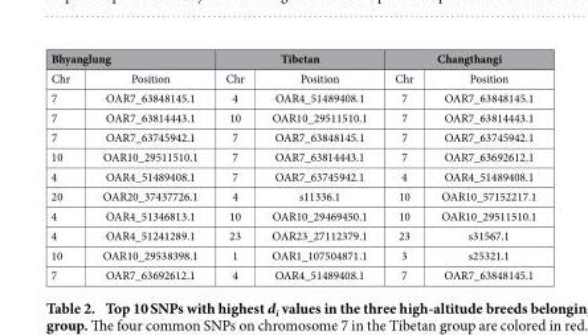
<table><thead><tr><td colspan="2">Bhyanglung</td><td colspan="2">Tibetan</td><td colspan="2">Changthangi</td></tr><tr><td>Chr</td><td>Position</td><td>Chr</td><td>Position</td><td>Chr</td><td>Position</td></tr></thead><tbody><tr><td>7</td><td>OAR7_63848145.1</td><td>4</td><td>OAR4_51489408.1</td><td>7</td><td>OAR7_63848145.1</td></tr><tr><td>7</td><td>OAR7_63814443.1</td><td>10</td><td>OAR10_29511510.1</td><td>7</td><td>OAR7_63814443.1</td></tr><tr><td>7</td><td>OAR7_63745942.1</td><td>7</td><td>OAR7_63848145.1</td><td>7</td><td>OAR7_63745942.1</td></tr><tr><td>10</td><td>OAR10_29511510.1</td><td>7</td><td>OAR7_63814443.1</td><td>7</td><td>OAR7_63692612.1</td></tr><tr><td>4</td><td>OAR4_51489408.1</td><td>7</td><td>OAR7_63745942.1</td><td>4</td><td>OAR4_51489408.1</td></tr><tr><td>20</td><td>OAR20_37437726.1</td><td>4</td><td>s11336.1</td><td>10</td><td>OAR10_57152217.1</td></tr><tr><td>4</td><td>OAR4_51346813.1</td><td>10</td><td>OAR10_29469450.1</td><td>10</td><td>OAR10_29511510.1</td></tr><tr><td>4</td><td>OAR4_51241289.1</td><td>23</td><td>OAR23_27112379.1</td><td>23</td><td>s31567.1</td></tr><tr><td>10</td><td>OAR10_29538398.1</td><td>1</td><td>OAR1_107504871.1</td><td>3</td><td>s25321.1</td></tr><tr><td>7</td><td>OAR7_63692612.1</td><td>4</td><td>OAR4_51489408.1</td><td>7</td><td>OAR7_63848145.1</td></tr></tbody></table>